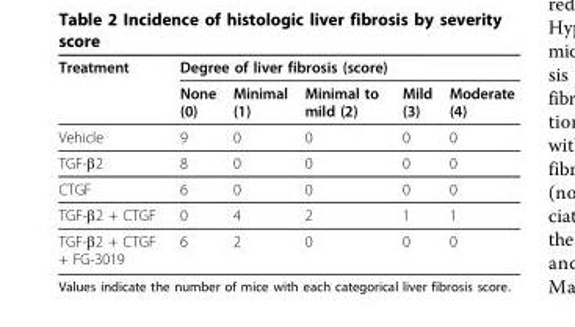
<table><thead><tr><td rowspan="2">Treatment</td><td colspan="5">Degree of liver fibrosis (score)</td></tr><tr><td>None (0)</td><td>Minimal (1)</td><td>Minimal to mild (2)</td><td>Mild (3)</td><td>Moderate (4)</td></tr></thead><tbody><tr><td>Vehicle</td><td>9</td><td>0</td><td>0</td><td>0</td><td>0</td></tr><tr><td>TGF-β2</td><td>8</td><td>0</td><td>0</td><td>0</td><td>0</td></tr><tr><td>CTGF</td><td>6</td><td>0</td><td>0</td><td>0</td><td>0</td></tr><tr><td>TGF-β2 + CTGF</td><td>0</td><td>4</td><td>2</td><td>1</td><td>1</td></tr><tr><td>TGF-β2 + CTGF + FG-3019</td><td>6</td><td>2</td><td>0</td><td>0</td><td>0</td></tr></tbody></table>